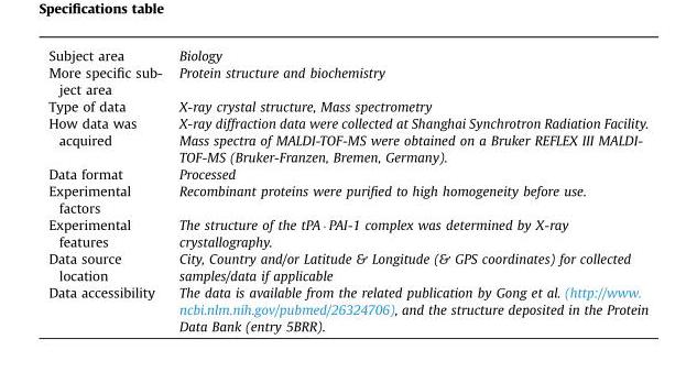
<table><tbody><tr><td>Subject area</td><td>Biology</td></tr><tr><td>More specific sub- ject area</td><td>Protein structure and biochemistry</td></tr><tr><td>Type of data</td><td>X-ray crystal structure, Mass spectrometry</td></tr><tr><td>How data was acquired</td><td>X-ray diffraction data were collected at Shanghai Synchrotron Radiation Facility. Mass spectra of MALDI-TOF-MS were obtained on a Bruker REFLEX III MALDI- TOF-MS (Bruker-Franzen, Bremen, Germany).</td></tr><tr><td>Data format</td><td>Processed</td></tr><tr><td>Experimental factors</td><td>Recombinant proteins were purified to high homogeneity before use.</td></tr><tr><td>Experimental features</td><td>The structure of the tPA · PAI-1 complex was determined by X-ray crystallography.</td></tr><tr><td>Data source location</td><td>City, Country and/or Latitude &amp; Longitude (&amp; GPS coordinates) for collected samples/data if applicable</td></tr><tr><td>Data accessibility</td><td>The data is available from the related publication by Gong et al. (http://www. ncbi.nlm.nih.gov/pubmed/26324706), and the structure deposited in the Protein Data Bank (entry 5BRR).</td></tr></tbody></table>